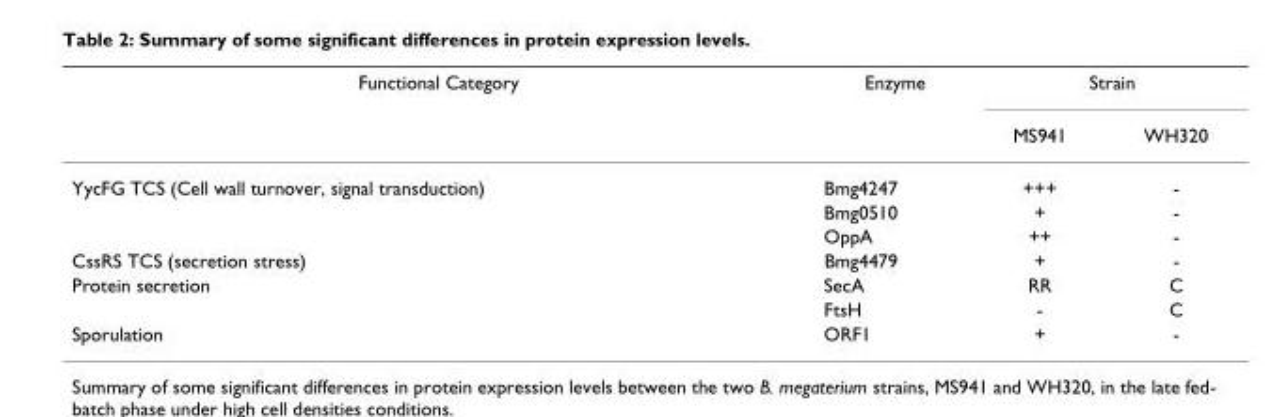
<table><thead><tr><td rowspan="2">Functional Category</td><td rowspan="2">Enzyme</td><td colspan="2">Strain</td></tr><tr><td>MS941</td><td>WH320</td></tr></thead><tbody><tr><td rowspan="3">YycFG TCS (Cell wall turnover, signal transduction)</td><td>Bmg4247</td><td>+++</td><td>-</td></tr><tr><td>Bmg0510</td><td>+</td><td>-</td></tr><tr><td>OppA</td><td>++</td><td>-</td></tr><tr><td>CssRS TCS (secretion stress)</td><td>Bmg4479</td><td>+</td><td>-</td></tr><tr><td rowspan="2">Protein secretion</td><td>SecA</td><td>RR</td><td>C</td></tr><tr><td>FtsH</td><td>-</td><td>C</td></tr><tr><td>Sporulation</td><td>ORF1</td><td>+</td><td>-</td></tr></tbody></table>